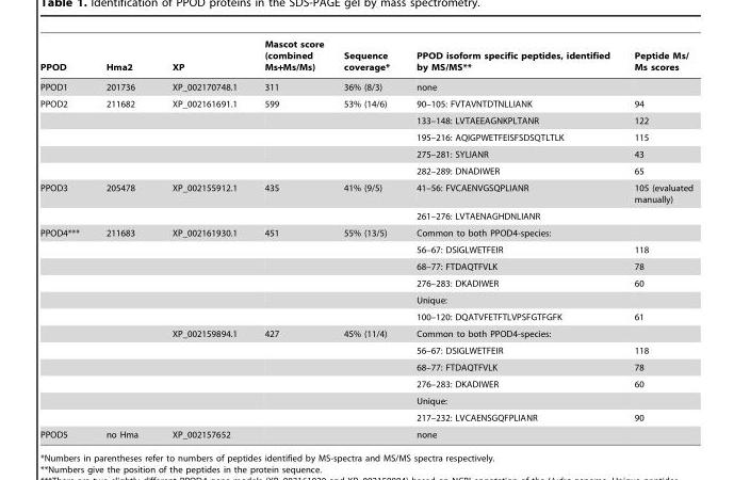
<table><thead><tr><td>PPOD</td><td>Hma2</td><td>XP</td><td>Mascot score (combined Ms+Ms/Ms)</td><td>Sequence coverage*</td><td>PPOD isoform specific peptides, identified by MS/MS**</td><td>Peptide Ms/ Ms scores</td></tr></thead><tbody><tr><td>PPOD1</td><td>201736</td><td>XP_002170748.1</td><td>311</td><td>36% (8/3)</td><td>none</td><td></td></tr><tr><td rowspan="5">PPOD2</td><td>211682</td><td>XP_002161691.1</td><td>599</td><td>53% (14/6)</td><td>90–105: FVTAVNTDTNLLIANK</td><td>94</td></tr><tr><td></td><td></td><td></td><td></td><td>133–148: LVTAEEAGNKPLTANR</td><td>122</td></tr><tr><td></td><td></td><td></td><td></td><td>195–216: AQIGPWETFEISFSDSQTLTLK</td><td>115</td></tr><tr><td></td><td></td><td></td><td></td><td>275–281: SYLIANR</td><td>43</td></tr><tr><td></td><td></td><td></td><td></td><td>282–289: DNADIWER</td><td>65</td></tr><tr><td rowspan="2">PPOD3</td><td>205478</td><td>XP_002155912.1</td><td>435</td><td>41% (9/5)</td><td>41–56: FVCAENVGSQPLIANR</td><td>105 (evaluated manually)</td></tr><tr><td></td><td></td><td></td><td></td><td>261–276: LVTAENAGHDNLIANR</td><td></td></tr><tr><td rowspan="12">PPOD4***</td><td>211683</td><td>XP_002161930.1</td><td>451</td><td>55% (13/5)</td><td>Common to both PPOD4-species:</td><td></td></tr><tr><td></td><td></td><td></td><td></td><td>56–67: DSIGLWETFEIR</td><td>118</td></tr><tr><td></td><td></td><td></td><td></td><td>68–77: FTDAQTFVLK</td><td>78</td></tr><tr><td></td><td></td><td></td><td></td><td>276–283: DKADIWER</td><td>60</td></tr><tr><td></td><td></td><td></td><td></td><td>Unique:</td><td></td></tr><tr><td></td><td></td><td></td><td></td><td>100–120: DQATVFETFTLVPSFGTFGFK</td><td>61</td></tr><tr><td></td><td>XP_002159894.1</td><td>427</td><td>45% (11/4)</td><td>Common to both PPOD4-species:</td><td></td></tr><tr><td></td><td></td><td></td><td></td><td>56–67: DSIGLWETFEIR</td><td>118</td></tr><tr><td></td><td></td><td></td><td></td><td>68–77: FTDAQTFVLK</td><td>78</td></tr><tr><td></td><td></td><td></td><td></td><td>276–283: DKADIWER</td><td>60</td></tr><tr><td></td><td></td><td></td><td></td><td>Unique:</td><td></td></tr><tr><td></td><td></td><td></td><td></td><td>217–232: LVCAENSGQFPLIANR</td><td>90</td></tr><tr><td>PPOD5</td><td>no Hma</td><td>XP_002157652</td><td></td><td></td><td>none</td><td></td></tr></tbody></table>